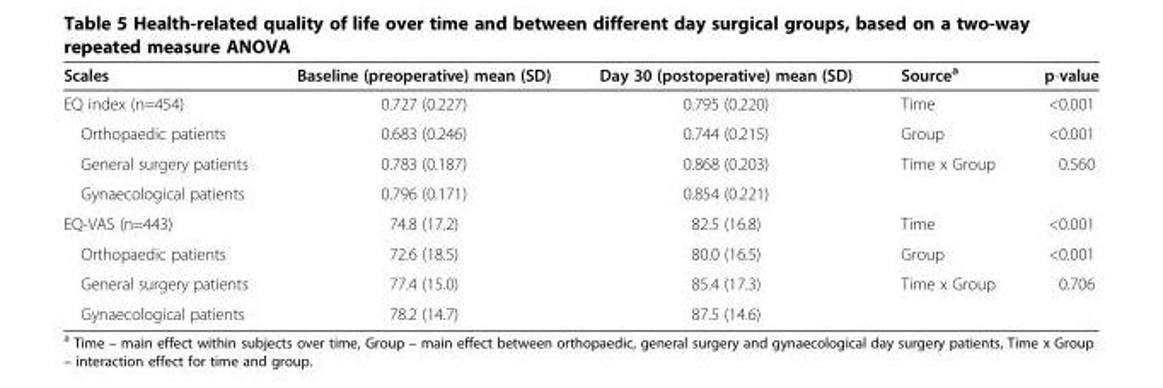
<table><thead><tr><td>Scales</td><td>Baseline (preoperative) mean (SD)</td><td>Day 30 (postoperative) mean (SD)</td><td>Source<sup>a</sup></td><td>p-value</td></tr></thead><tbody><tr><td>EQ index (n=454)</td><td>0.727 (0.227)</td><td>0.795 (0.220)</td><td>Time</td><td>&lt;0.001</td></tr><tr><td>Orthopaedic patients</td><td>0.683 (0.246)</td><td>0.744 (0.215)</td><td>Group</td><td>&lt;0.001</td></tr><tr><td>General surgery patients</td><td>0.783 (0.187)</td><td>0.868 (0.203)</td><td>Time x Group</td><td>0.560</td></tr><tr><td>Gynaecological patients</td><td>0.796 (0.171)</td><td>0.854 (0.221)</td><td></td><td></td></tr><tr><td>EQ-VAS (n=443)</td><td>74.8 (17.2)</td><td>82.5 (16.8)</td><td>Time</td><td>&lt;0.001</td></tr><tr><td>Orthopaedic patients</td><td>72.6 (18.5)</td><td>80.0 (16.5)</td><td>Group</td><td>&lt;0.001</td></tr><tr><td>General surgery patients</td><td>77.4 (15.0)</td><td>85.4 (17.3)</td><td>Time x Group</td><td>0.706</td></tr><tr><td>Gynaecological patients</td><td>78.2 (14.7)</td><td>87.5 (14.6)</td><td></td><td></td></tr></tbody></table>